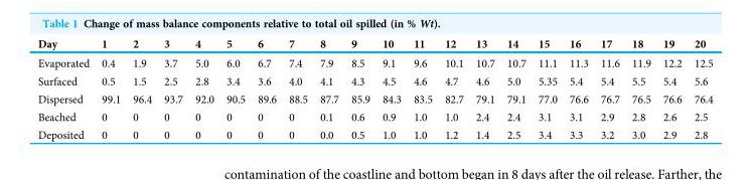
<table><thead><tr><td>Day</td><td>1</td><td>2</td><td>3</td><td>4</td><td>5</td><td>6</td><td>7</td><td>8</td><td>9</td><td>10</td><td>11</td><td>12</td><td>13</td><td>14</td><td>15</td><td>16</td><td>17</td><td>18</td><td>19</td><td>20</td></tr></thead><tbody><tr><td>Evaporated</td><td>0.4</td><td>1.9</td><td>3.7</td><td>5.0</td><td>6.0</td><td>6.7</td><td>7.4</td><td>7.9</td><td>8.5</td><td>9.1</td><td>9.6</td><td>10.1</td><td>10.7</td><td>10.7</td><td>11.1</td><td>11.3</td><td>11.6</td><td>11.9</td><td>12.2</td><td>12.5</td></tr><tr><td>Surfaced</td><td>0.5</td><td>1.5</td><td>2.5</td><td>2.8</td><td>3.4</td><td>3.6</td><td>4.0</td><td>4.1</td><td>4.3</td><td>4.5</td><td>4.6</td><td>4.7</td><td>4.6</td><td>5.0</td><td>5.35</td><td>5.4</td><td>5.4</td><td>5.5</td><td>5.4</td><td>5.6</td></tr><tr><td>Dispersed</td><td>99.1</td><td>96.4</td><td>93.7</td><td>92.0</td><td>90.5</td><td>89.6</td><td>88.5</td><td>87.7</td><td>85.9</td><td>84.3</td><td>83.5</td><td>82.7</td><td>79.1</td><td>79.1</td><td>77.0</td><td>76.6</td><td>76.7</td><td>76.5</td><td>76.6</td><td>76.4</td></tr><tr><td>Beached</td><td>0</td><td>0</td><td>0</td><td>0</td><td>0</td><td>0</td><td>0</td><td>0.1</td><td>0.6</td><td>0.9</td><td>1.0</td><td>1.0</td><td>2.4</td><td>2.4</td><td>3.1</td><td>3.1</td><td>2.9</td><td>2.8</td><td>2.6</td><td>2.5</td></tr><tr><td>Deposited</td><td>0</td><td>0</td><td>0</td><td>0</td><td>0</td><td>0</td><td>0</td><td>0.0</td><td>0.5</td><td>1.0</td><td>1.0</td><td>1.2</td><td>1.4</td><td>2.5</td><td>3.4</td><td>3.3</td><td>3.2</td><td>3.0</td><td>2.9</td><td>2.8</td></tr></tbody></table>